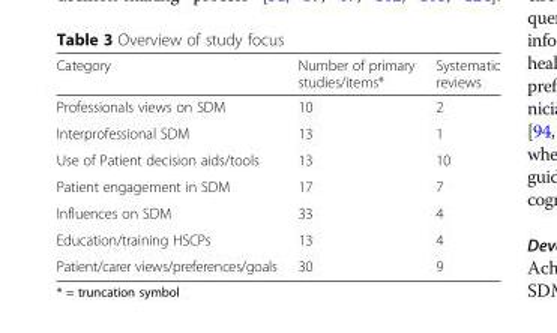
<table><thead><tr><td>Category</td><td>Number of primary studies/items*</td><td>Systematic reviews</td></tr></thead><tbody><tr><td>Professionals views on SDM</td><td>10</td><td>2</td></tr><tr><td>Interprofessional SDM</td><td>13</td><td>1</td></tr><tr><td>Use of Patient decision aids/tools</td><td>13</td><td>10</td></tr><tr><td>Patient engagement in SDM</td><td>17</td><td>7</td></tr><tr><td>Influences on SDM</td><td>33</td><td>4</td></tr><tr><td>Education/training HSCPs</td><td>13</td><td>4</td></tr><tr><td>Patient/carer views/preferences/goals</td><td>30</td><td>9</td></tr></tbody></table>